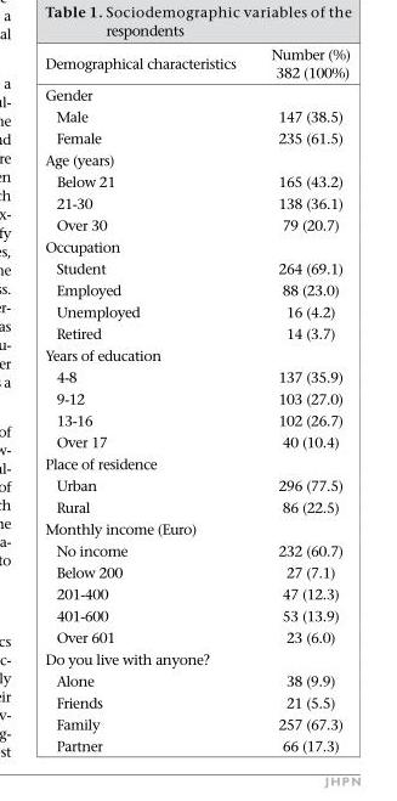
<table><thead><tr><td>Demographical characteristics</td><td>Number (%) 382 (100%)</td></tr></thead><tbody><tr><td colspan="2">Gender</td></tr><tr><td>Male</td><td>147 (38.5)</td></tr><tr><td>Female</td><td>235 (61.5)</td></tr><tr><td colspan="2">Age (years)</td></tr><tr><td>Below 21</td><td>165 (43.2)</td></tr><tr><td>21-30</td><td>138 (36.1)</td></tr><tr><td>Over 30</td><td>79 (20.7)</td></tr><tr><td colspan="2">Occupation</td></tr><tr><td>Student</td><td>264 (69.1)</td></tr><tr><td>Employed</td><td>88 (23.0)</td></tr><tr><td>Unemployed</td><td>16 (4.2)</td></tr><tr><td>Retired</td><td>14 (3.7)</td></tr><tr><td colspan="2">Years of education</td></tr><tr><td>4-8</td><td>137 (35.9)</td></tr><tr><td>9-12</td><td>103 (27.0)</td></tr><tr><td>13-16</td><td>102 (26.7)</td></tr><tr><td>Over 17</td><td>40 (10.4)</td></tr><tr><td colspan="2">Place of residence</td></tr><tr><td>Urban</td><td>296 (77.5)</td></tr><tr><td>Rural</td><td>86 (22.5)</td></tr><tr><td colspan="2">Monthly income (Euro)</td></tr><tr><td>No income</td><td>232 (60.7)</td></tr><tr><td>Below 200</td><td>27 (7.1)</td></tr><tr><td>201-400</td><td>47 (12.3)</td></tr><tr><td>401-600</td><td>53 (13.9)</td></tr><tr><td>Over 601</td><td>23 (6.0)</td></tr><tr><td colspan="2">Do you live with anyone?</td></tr><tr><td>Alone</td><td>38 (9.9)</td></tr><tr><td>Friends</td><td>21 (5.5)</td></tr><tr><td>Family</td><td>257 (67.3)</td></tr><tr><td>Partner</td><td>66 (17.3)</td></tr></tbody></table>